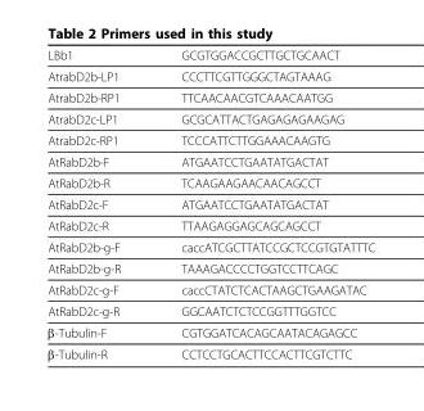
<table><thead><tr><td>LBb1</td><td>GCGTGGACCGCTTGCTGCAACT</td></tr></thead><tbody><tr><td>AtrabD2b-LP1</td><td>CCCTTCGTTGGGCTAGTAAAG</td></tr><tr><td>AtrabD2b-RP1</td><td>TTCAACAACGTCAAACAATGG</td></tr><tr><td>AtrabD2c-LP1</td><td>GCGCATTACTGAGAGAGAAGAG</td></tr><tr><td>AtrabD2c-RP1</td><td>TCCCATTCTTGGAAACAAGTG</td></tr><tr><td>AtRabD2b-F</td><td>ATGAATCCTGAATATGACTAT</td></tr><tr><td>AtRabD2b-R</td><td>TCAAGAAGAACAACAGCCT</td></tr><tr><td>AtRabD2c-F</td><td>ATGAATCCTGAATATGACTAT</td></tr><tr><td>AtRabD2c-R</td><td>TTAAGAGGAGCAGCAGCCT</td></tr><tr><td>AtRabD2b-g-F</td><td>caccATCGCTTATCCGCTCCGTGTATTTC</td></tr><tr><td>AtRabD2b-g-R</td><td>TAAAGACCCCTGGTCCTTCAGC</td></tr><tr><td>AtRabD2c-g-F</td><td>caccCTATCTCACTAAGCTGAAGATAC</td></tr><tr><td>AtRabD2c-g-R</td><td>GGCAATCTCTCCGGTTTGGTCC</td></tr><tr><td>β-Tubulin-F</td><td>CGTGGATCACAGCAATACAGAGCC</td></tr><tr><td>β-Tubulin-R</td><td>CCTCCTGCACTTCCACTTCGTCTTC</td></tr></tbody></table>